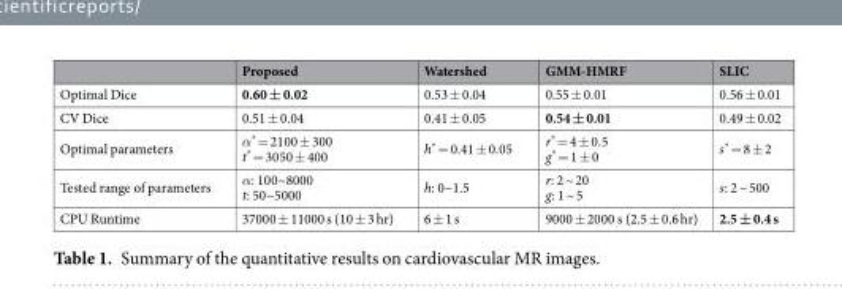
<table><thead><tr><td></td><td>Proposed</td><td>Watershed</td><td>GMM-HMRF</td><td>SLIC</td></tr></thead><tbody><tr><td>Optimal Dice</td><td>0.60 ± 0.02</td><td>0.53 ± 0.04</td><td>0.55 ± 0.01</td><td>0.56 ± 0.01</td></tr><tr><td>CV Dice</td><td>0.51 ± 0.04</td><td>0.41 ± 0.05</td><td>0.54 ± 0.01</td><td>0.49 ± 0.02</td></tr><tr><td>Optimal parameters</td><td>α* = 2100 ± 300 t* = 3050 ± 400</td><td>h* = 0.41 ± 0.05</td><td>r* = 4 ± 0.5 g* = 1 ± 0</td><td>s* = 8 ± 2</td></tr><tr><td>Tested range of parameters</td><td>α: 100~8000 t: 50~5000</td><td>h: 0~1.5</td><td>r: 2 ~ 20 g: 1 ~ 5</td><td>s: 2 ~ 500</td></tr><tr><td>CPU Runtime</td><td>37000 ± 11000 s (10 ± 3 hr)</td><td>6 ± 1 s</td><td>9000 ± 2000 s (2.5 ± 0.6 hr)</td><td>2.5 ± 0.4 s</td></tr></tbody></table>